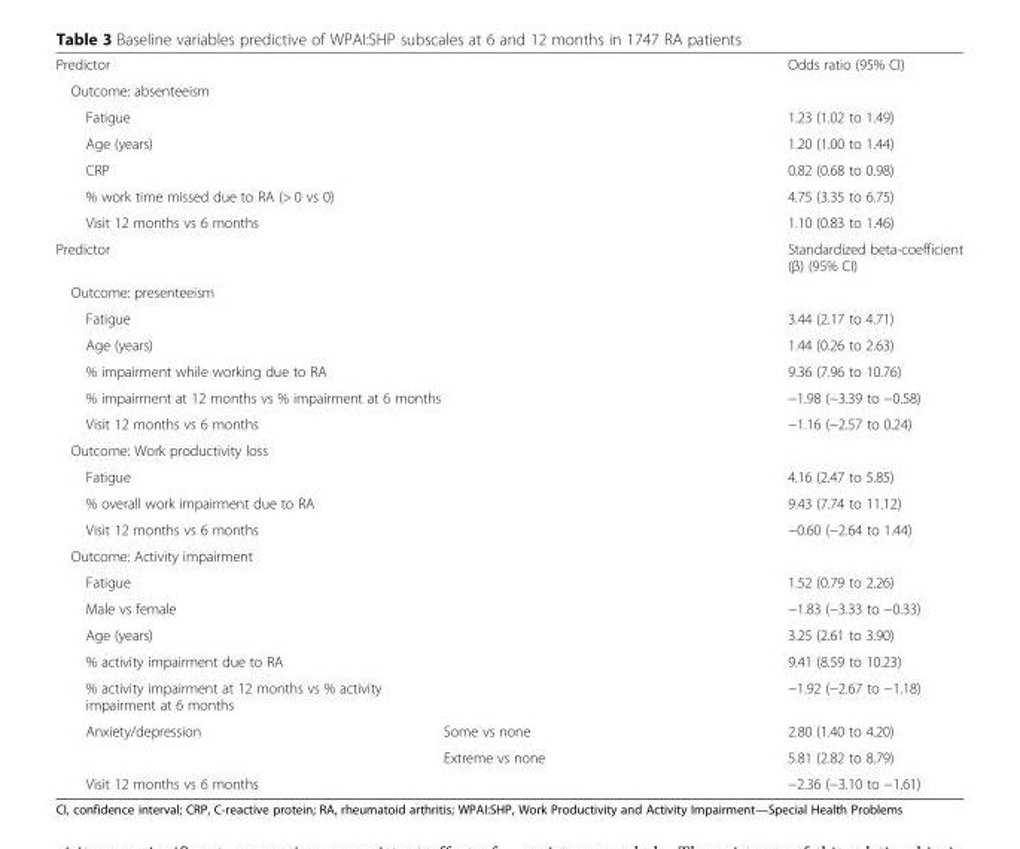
<table><tbody><tr><td colspan="2">Predictor</td><td>Odds ratio (95% CI)</td></tr><tr><td colspan="3">Outcome: absenteeism</td></tr><tr><td colspan="2">Fatigue</td><td>1.23 (1.02 to 1.49)</td></tr><tr><td colspan="2">Age (years)</td><td>1.20 (1.00 to 1.44)</td></tr><tr><td colspan="2">CRP</td><td>0.82 (0.68 to 0.98)</td></tr><tr><td colspan="2">% work time missed due to RA (&gt; 0 vs 0)</td><td>4.75 (3.35 to 6.75)</td></tr><tr><td colspan="2">Visit 12 months vs 6 months</td><td>1.10 (0.83 to 1.46)</td></tr><tr><td colspan="2">Predictor</td><td>Standardized beta-coefficient (β) (95% CI)</td></tr><tr><td colspan="3">Outcome: presenteeism</td></tr><tr><td colspan="2">Fatigue</td><td>3.44 (2.17 to 4.71)</td></tr><tr><td colspan="2">Age (years)</td><td>1.44 (0.26 to 2.63)</td></tr><tr><td colspan="2">% impairment while working due to RA</td><td>9.36 (7.96 to 10.76)</td></tr><tr><td colspan="2">% impairment at 12 months vs % impairment at 6 months</td><td>−1.98 (−3.39 to −0.58)</td></tr><tr><td colspan="2">Visit 12 months vs 6 months</td><td>−1.16 (−2.57 to 0.24)</td></tr><tr><td colspan="3">Outcome: Work productivity loss</td></tr><tr><td colspan="2">Fatigue</td><td>4.16 (2.47 to 5.85)</td></tr><tr><td colspan="2">% overall work impairment due to RA</td><td>9.43 (7.74 to 11.12)</td></tr><tr><td colspan="2">Visit 12 months vs 6 months</td><td>−0.60 (−2.64 to 1.44)</td></tr><tr><td colspan="3">Outcome: Activity impairment</td></tr><tr><td colspan="2">Fatigue</td><td>1.52 (0.79 to 2.26)</td></tr><tr><td colspan="2">Male vs female</td><td>−1.83 (−3.33 to −0.33)</td></tr><tr><td colspan="2">Age (years)</td><td>3.25 (2.61 to 3.90)</td></tr><tr><td colspan="2">% activity impairment due to RA</td><td>9.41 (8.59 to 10.23)</td></tr><tr><td colspan="2">% activity impairment at 12 months vs % activity impairment at 6 months</td><td>−1.92 (−2.67 to −1.18)</td></tr><tr><td rowspan="2">Anxiety/depression</td><td>Some vs none</td><td>2.80 (1.40 to 4.20)</td></tr><tr><td>Extreme vs none</td><td>5.81 (2.82 to 8.79)</td></tr><tr><td colspan="2">Visit 12 months vs 6 months</td><td>−2.36 (−3.10 to −1.61)</td></tr></tbody></table>